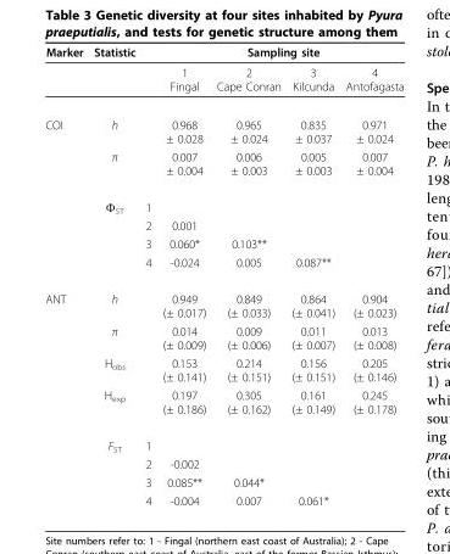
<table><thead><tr><td rowspan="2">Marker</td><td rowspan="2">Statistic</td><td rowspan="2"></td><td colspan="4">Sampling site</td></tr><tr><td>1 Fingal</td><td>2 Cape Conran</td><td>3 Kilcunda</td><td>4 Antofagasta</td></tr></thead><tbody><tr><td rowspan="6">COI</td><td>h</td><td></td><td>0.968 ± 0.028</td><td>0.965 ± 0.024</td><td>0.835 ± 0.037</td><td>0.971 ± 0.024</td></tr><tr><td>π</td><td></td><td>0.007 ± 0.004</td><td>0.006 ± 0.003</td><td>0.005 ± 0.003</td><td>0.007 ± 0.004</td></tr><tr><td>Φ<sub>ST</sub></td><td>1</td><td></td><td></td><td></td><td></td></tr><tr><td></td><td>2</td><td>0.001</td><td></td><td></td><td></td></tr><tr><td></td><td>3</td><td>0.060*</td><td>0.103**</td><td></td><td></td></tr><tr><td></td><td>4</td><td>-0.024</td><td>0.005</td><td>0.087**</td><td></td></tr><tr><td rowspan="8">ANT</td><td>h</td><td></td><td>0.949 (± 0.017)</td><td>0.849 (± 0.033)</td><td>0.864 (± 0.041)</td><td>0.904 (± 0.023)</td></tr><tr><td>π</td><td></td><td>0.014 (± 0.009)</td><td>0.009 (± 0.006)</td><td>0.011 (± 0.007)</td><td>0.013 (± 0.008)</td></tr><tr><td>H<sub>obs</sub></td><td></td><td>0.153 (± 0.141)</td><td>0.214 (± 0.151)</td><td>0.156 (± 0.151)</td><td>0.205 (± 0.146)</td></tr><tr><td>H<sub>exp</sub></td><td></td><td>0.197 (± 0.186)</td><td>0.305 (± 0.162)</td><td>0.161 (± 0.149)</td><td>0.245 (± 0.178)</td></tr><tr><td>F<sub>ST</sub></td><td>1</td><td></td><td></td><td></td><td></td></tr><tr><td></td><td>2</td><td>-0.002</td><td></td><td></td><td></td></tr><tr><td></td><td>3</td><td>0.085**</td><td>0.044*</td><td></td><td></td></tr><tr><td></td><td>4</td><td>-0.004</td><td>0.007</td><td>0.061*</td><td></td></tr></tbody></table>